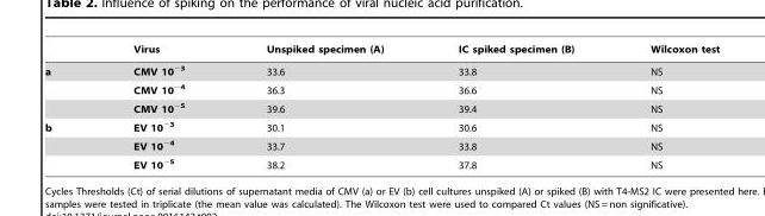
<table><thead><tr><td></td><td>Virus</td><td>Unspiked specimen (A)</td><td>IC spiked specimen (B)</td><td>Wilcoxon test</td></tr></thead><tbody><tr><td rowspan="3">a</td><td>CMV 10<sup>−3</sup></td><td>33.6</td><td>33.8</td><td>NS</td></tr><tr><td>CMV 10<sup>−4</sup></td><td>36.3</td><td>36.6</td><td>NS</td></tr><tr><td>CMV 10<sup>−5</sup></td><td>39.6</td><td>39.4</td><td>NS</td></tr><tr><td rowspan="3">b</td><td>EV 10<sup>−3</sup></td><td>30.1</td><td>30.6</td><td>NS</td></tr><tr><td>EV 10<sup>−4</sup></td><td>33.7</td><td>33.8</td><td>NS</td></tr><tr><td>EV 10<sup>−5</sup></td><td>38.2</td><td>37.8</td><td>NS</td></tr></tbody></table>